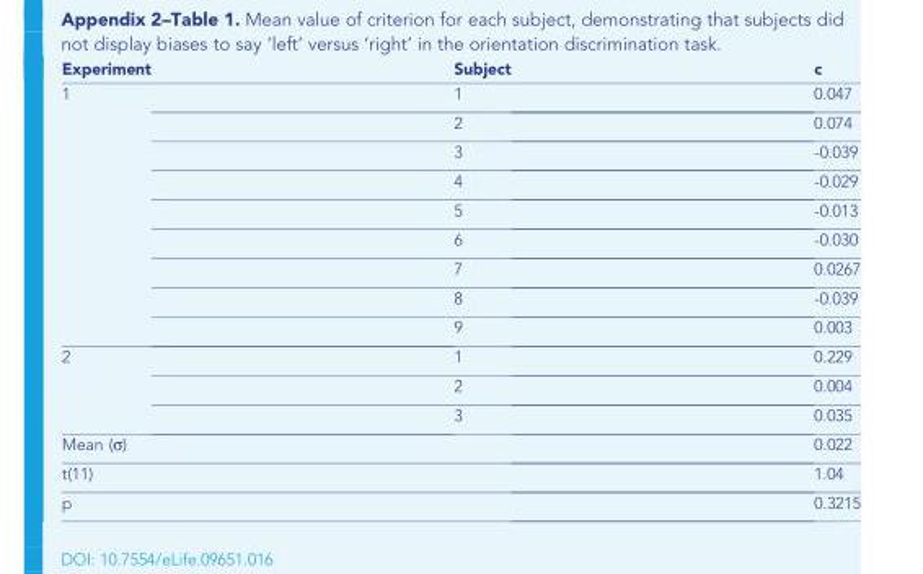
<table><thead><tr><td>Experiment</td><td>Subject</td><td>c</td></tr></thead><tbody><tr><td rowspan="9">1</td><td>1</td><td>0.047</td></tr><tr><td>2</td><td>0.074</td></tr><tr><td>3</td><td>-0.039</td></tr><tr><td>4</td><td>-0.029</td></tr><tr><td>5</td><td>-0.013</td></tr><tr><td>6</td><td>-0.030</td></tr><tr><td>7</td><td>0.0267</td></tr><tr><td>8</td><td>-0.039</td></tr><tr><td>9</td><td>0.003</td></tr><tr><td rowspan="3">2</td><td>1</td><td>0.229</td></tr><tr><td>2</td><td>0.004</td></tr><tr><td>3</td><td>0.035</td></tr><tr><td colspan="2">Mean (σ)</td><td>0.022</td></tr><tr><td colspan="2">t(11)</td><td>1.04</td></tr><tr><td colspan="2">p</td><td>0.3215</td></tr></tbody></table>